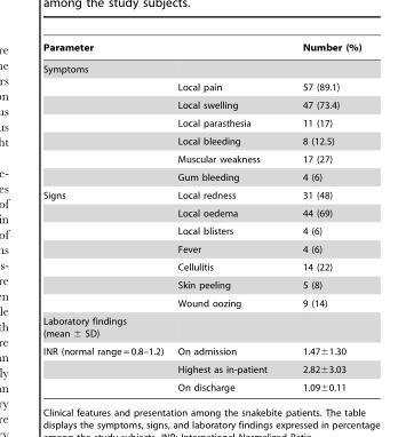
<table><thead><tr><td>Parameter</td><td></td><td>Number (%)</td></tr></thead><tbody><tr><td colspan="3">Symptoms</td></tr><tr><td></td><td>Local pain</td><td>57 (89.1)</td></tr><tr><td></td><td>Local swelling</td><td>47 (73.4)</td></tr><tr><td></td><td>Local parasthesia</td><td>11 (17)</td></tr><tr><td></td><td>Local bleeding</td><td>8 (12.5)</td></tr><tr><td></td><td>Muscular weakness</td><td>17 (27)</td></tr><tr><td></td><td>Gum bleeding</td><td>4 (6)</td></tr><tr><td rowspan="7">Signs</td><td>Local redness</td><td>31 (48)</td></tr><tr><td>Local oedema</td><td>44 (69)</td></tr><tr><td>Local blisters</td><td>4 (6)</td></tr><tr><td>Fever</td><td>4 (6)</td></tr><tr><td>Cellulitis</td><td>14 (22)</td></tr><tr><td>Skin peeling</td><td>5 (8)</td></tr><tr><td>Wound oozing</td><td>9 (14)</td></tr><tr><td colspan="3">Laboratory findings (mean ± SD)</td></tr><tr><td rowspan="3">INR (normal range = 0.8–1.2)</td><td>On admission</td><td>1.47±1.30</td></tr><tr><td>Highest as in-patient</td><td>2.82±3.03</td></tr><tr><td>On discharge</td><td>1.09±0.11</td></tr></tbody></table>